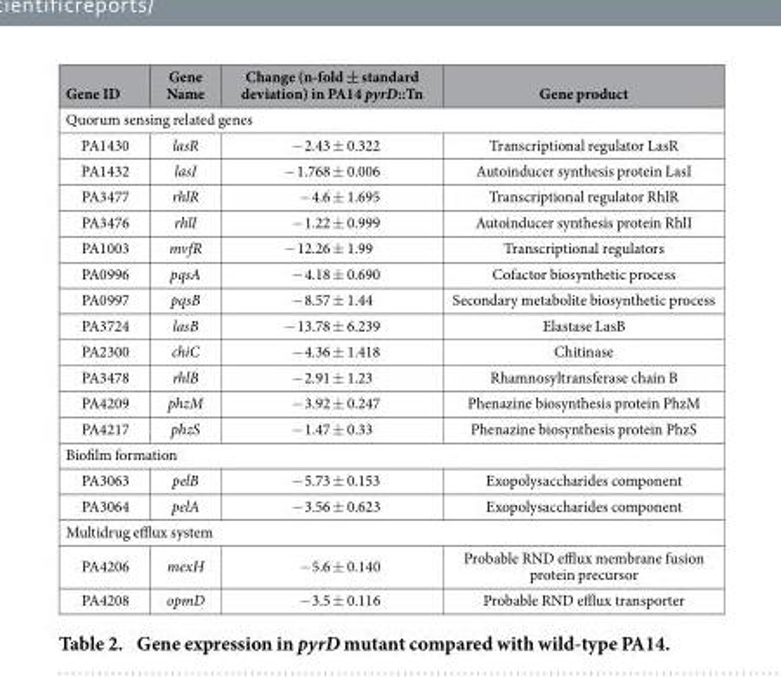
<table><thead><tr><td>Gene ID</td><td>Gene Name</td><td>Change (n-fold ± standard deviation) in PA14 pyrD::Tn</td><td>Gene product</td></tr></thead><tbody><tr><td colspan="4">Quorum sensing related genes</td></tr><tr><td>PA1430</td><td>lasR</td><td>− 2.43 ± 0.322</td><td>Transcriptional regulator LasR</td></tr><tr><td>PA1432</td><td>lasI</td><td>− 1.768 ± 0.006</td><td>Autoinducer synthesis protein LasI</td></tr><tr><td>PA3477</td><td>rhlR</td><td>− 4.6 ± 1.695</td><td>Transcriptional regulator RhlR</td></tr><tr><td>PA3476</td><td>rhlI</td><td>− 1.22 ± 0.999</td><td>Autoinducer synthesis protein RhlI</td></tr><tr><td>PA1003</td><td>mvfR</td><td>− 12.26 ± 1.99</td><td>Transcriptional regulators</td></tr><tr><td>PA0996</td><td>pqsA</td><td>− 4.18 ± 0.690</td><td>Cofactor biosynthetic process</td></tr><tr><td>PA0997</td><td>pqsB</td><td>− 8.57 ± 1.44</td><td>Secondary metabolite biosynthetic process</td></tr><tr><td>PA3724</td><td>lasB</td><td>− 13.78 ± 6.239</td><td>Elastase LasB</td></tr><tr><td>PA2300</td><td>chiC</td><td>− 4.36 ± 1.418</td><td>Chitinase</td></tr><tr><td>PA3478</td><td>rhlB</td><td>− 2.91 ± 1.23</td><td>Rhamnosyltransferase chain B</td></tr><tr><td>PA4209</td><td>phzM</td><td>− 3.92 ± 0.247</td><td>Phenazine biosynthesis protein PhzM</td></tr><tr><td>PA4217</td><td>phzS</td><td>− 1.47 ± 0.33</td><td>Phenazine biosynthesis protein PhzS</td></tr><tr><td colspan="4">Biofilm formation</td></tr><tr><td>PA3063</td><td>pelB</td><td>− 5.73 ± 0.153</td><td>Exopolysaccharides component</td></tr><tr><td>PA3064</td><td>pelA</td><td>− 3.56 ± 0.623</td><td>Exopolysaccharides component</td></tr><tr><td colspan="4">Multidrug efflux system</td></tr><tr><td>PA4206</td><td>mexH</td><td>− 5.6 ± 0.140</td><td>Probable RND efflux membrane fusion protein precursor</td></tr><tr><td>PA4208</td><td>opmD</td><td>− 3.5 ± 0.116</td><td>Probable RND efflux transporter</td></tr></tbody></table>